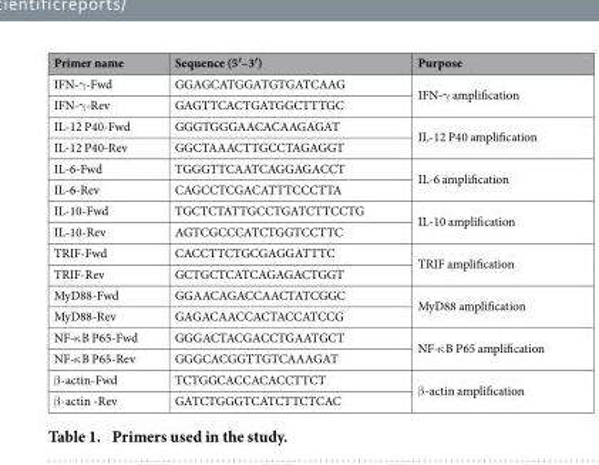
<table><thead><tr><td>Primer name</td><td>Sequence (5′–3′)</td><td>Purpose</td></tr></thead><tbody><tr><td>IFN-γ -Fwd</td><td>GGAGCATGGATGTGATCAAG</td><td rowspan="2">IFN-γ amplification</td></tr><tr><td>IFN-γ -Rev</td><td>GAGTTCACTGATGGCTTTGC</td></tr><tr><td>IL-12 P40-Fwd</td><td>GGGTGGGAACACAAGAGAT</td><td rowspan="2">IL-12 P40 amplification</td></tr><tr><td>IL-12 P40-Rev</td><td>GGCTAAACTTGCCTAGAGGT</td></tr><tr><td>IL-6-Fwd</td><td>TGGGTTCAATCAGGAGACCT</td><td rowspan="2">IL-6 amplification</td></tr><tr><td>IL-6-Rev</td><td>CAGCCTCGACATTTCCCTTA</td></tr><tr><td>IL-10-Fwd</td><td>TGCTCTATTGCCTGATCTTCCTG</td><td rowspan="2">IL-10 amplification</td></tr><tr><td>IL-10-Rev</td><td>AGTCGCCCATCTGGTCCTTC</td></tr><tr><td>TRIF-Fwd</td><td>CACCTTCTGCGAGGATTTC</td><td rowspan="2">TRIF amplification</td></tr><tr><td>TRIF-Rev</td><td>GCTGCTCATCAGAGACTGGT</td></tr><tr><td>MyD88-Fwd</td><td>GGAACAGACCAACTATCGGC</td><td rowspan="2">MyD88 amplification</td></tr><tr><td>MyD88-Rev</td><td>GAGACAACCACTACCATCCG</td></tr><tr><td>NF-κ B P65-Fwd</td><td>GGGACTACGACCTGAATGCT</td><td rowspan="2">NF-κ B P65 amplification</td></tr><tr><td>NF-κ B P65-Rev</td><td>GGGCACGGTTGTCAAAGAT</td></tr><tr><td>β -actin-Fwd</td><td>TCTGGCACCACACCTTCT</td><td rowspan="2">β -actin amplification</td></tr><tr><td>β -actin -Rev</td><td>GATCTGGGTCATCTTCTCAC</td></tr></tbody></table>